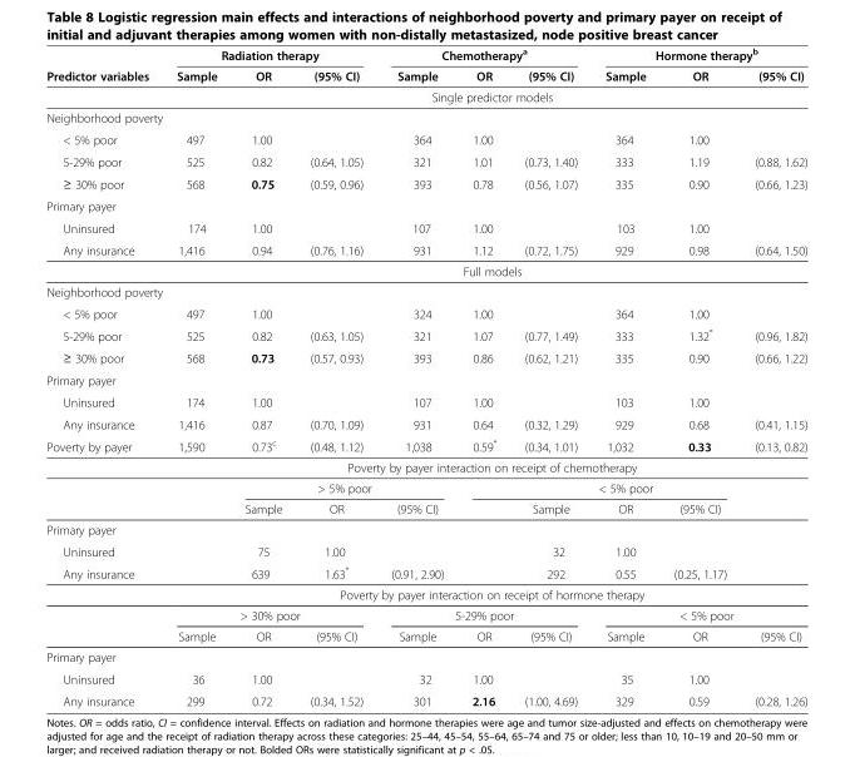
<table><thead><tr><td rowspan="2">Predictor variables</td><td colspan="3">Radiation therapy</td><td colspan="3">Chemotherapy<sup>a</sup></td><td colspan="3">Hormone therapy<sup>b</sup></td></tr><tr><td>Sample</td><td>OR</td><td>(95% CI)</td><td>Sample</td><td>OR</td><td>(95% CI)</td><td>Sample</td><td>OR</td><td>(95% CI)</td></tr></thead><tbody><tr><td></td><td colspan="9">Single predictor models</td></tr><tr><td colspan="10">Neighborhood poverty</td></tr><tr><td>&lt; 5% poor</td><td>497</td><td>1.00</td><td></td><td>364</td><td>1.00</td><td></td><td>364</td><td>1.00</td><td></td></tr><tr><td>5-29% poor</td><td>525</td><td>0.82</td><td>(0.64, 1.05)</td><td>321</td><td>1.01</td><td>(0.73, 1.40)</td><td>333</td><td>1.19</td><td>(0.88, 1.62)</td></tr><tr><td>≥ 30% poor</td><td>568</td><td>0.75</td><td>(0.59, 0.96)</td><td>393</td><td>0.78</td><td>(0.56, 1.07)</td><td>335</td><td>0.90</td><td>(0.66, 1.23)</td></tr><tr><td colspan="10">Primary payer</td></tr><tr><td>Uninsured</td><td>174</td><td>1.00</td><td></td><td>107</td><td>1.00</td><td></td><td>103</td><td>1.00</td><td></td></tr><tr><td rowspan="2">Any insurance</td><td>1,416</td><td>0.94</td><td>(0.76, 1.16)</td><td>931</td><td>1.12</td><td>(0.72, 1.75)</td><td>929</td><td>0.98</td><td>(0.64, 1.50)</td></tr><tr><td colspan="9">Full models</td></tr><tr><td colspan="10">Neighborhood poverty</td></tr><tr><td>&lt; 5% poor</td><td>497</td><td>1.00</td><td></td><td>324</td><td>1.00</td><td></td><td>364</td><td>1.00</td><td></td></tr><tr><td>5-29% poor</td><td>525</td><td>0.82</td><td>(0.63, 1.05)</td><td>321</td><td>1.07</td><td>(0.77, 1.49)</td><td>333</td><td>1.32*</td><td>(0.96, 1.82)</td></tr><tr><td>≥ 30% poor</td><td>568</td><td>0.73</td><td>(0.57, 0.93)</td><td>393</td><td>0.86</td><td>(0.62, 1.21)</td><td>335</td><td>0.90</td><td>(0.66, 1.22)</td></tr><tr><td colspan="10">Primary payer</td></tr><tr><td>Uninsured</td><td>174</td><td>1.00</td><td></td><td>107</td><td>1.00</td><td></td><td>103</td><td>1.00</td><td></td></tr><tr><td>Any insurance</td><td>1,416</td><td>0.87</td><td>(0.70, 1.09)</td><td>931</td><td>0.64</td><td>(0.32, 1.29)</td><td>929</td><td>0.68</td><td>(0.41, 1.15)</td></tr><tr><td rowspan="4">Poverty by payer</td><td>1,590</td><td>0.73<sup>c</sup></td><td>(0.48, 1.12)</td><td>1,038</td><td>0.59*</td><td>(0.34, 1.01)</td><td>1,032</td><td>0.33</td><td>(0.13, 0.82)</td></tr><tr><td colspan="9">Poverty by payer interaction on receipt of chemotherapy</td></tr><tr><td></td><td colspan="3">&gt; 5% poor</td><td></td><td colspan="3">&lt; 5% poor</td><td></td></tr><tr><td></td><td>Sample</td><td>OR</td><td>(95% CI)</td><td></td><td>Sample</td><td>OR</td><td>(95% CI)</td><td></td></tr><tr><td colspan="10">Primary payer</td></tr><tr><td>Uninsured</td><td></td><td>75</td><td>1.00</td><td></td><td></td><td>32</td><td>1.00</td><td></td><td></td></tr><tr><td rowspan="4">Any insurance</td><td></td><td>639</td><td>1.63*</td><td>(0.91, 2.90)</td><td></td><td>292</td><td>0.55</td><td>(0.25, 1.17)</td><td></td></tr><tr><td colspan="9">Poverty by payer interaction on receipt of hormone therapy</td></tr><tr><td colspan="3">&gt; 30% poor</td><td colspan="3">5-29% poor</td><td colspan="3">&lt; 5% poor</td></tr><tr><td>Sample</td><td>OR</td><td>(95% CI)</td><td>Sample</td><td>OR</td><td>(95% CI)</td><td>Sample</td><td>OR</td><td>(95% CI)</td></tr><tr><td colspan="10">Primary payer</td></tr><tr><td>Uninsured</td><td>36</td><td>1.00</td><td></td><td>32</td><td>1.00</td><td></td><td>35</td><td>1.00</td><td></td></tr><tr><td>Any insurance</td><td>299</td><td>0.72</td><td>(0.34, 1.52)</td><td>301</td><td>2.16</td><td>(1.00, 4.69)</td><td>329</td><td>0.59</td><td>(0.28, 1.26)</td></tr></tbody></table>